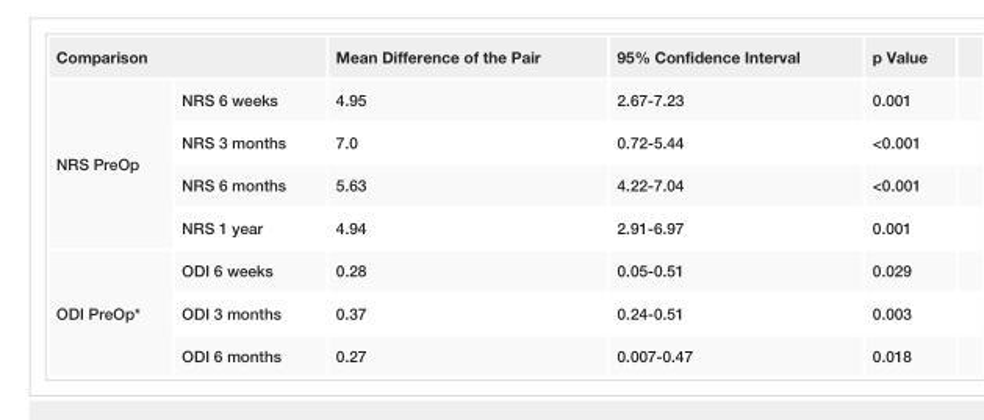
<table><tbody><tr><td colspan="2">Comparison</td><td>Mean Difference of the Pair</td><td>95% Confidence Interval</td><td>p Value</td></tr><tr><td rowspan="4">NRS PreOp</td><td>NRS 6 weeks</td><td>4.95</td><td>2.67-7.23</td><td>0.001</td></tr><tr><td>NRS 3 months</td><td>7.0</td><td>0.72-5.44</td><td>&lt;0.001</td></tr><tr><td>NRS 6 months</td><td>5.63</td><td>4.22-7.04</td><td>&lt;0.001</td></tr><tr><td>NRS 1 year</td><td>4.94</td><td>2.91-6.97</td><td>0.001</td></tr><tr><td rowspan="3">ODI PreOp*</td><td>ODI 6 weeks</td><td>0.28</td><td>0.05-0.51</td><td>0.029</td></tr><tr><td>ODI 3 months</td><td>0.37</td><td>0.24-0.51</td><td>0.003</td></tr><tr><td>ODI 6 months</td><td>0.27</td><td>0.007-0.47</td><td>0.018</td></tr></tbody></table>